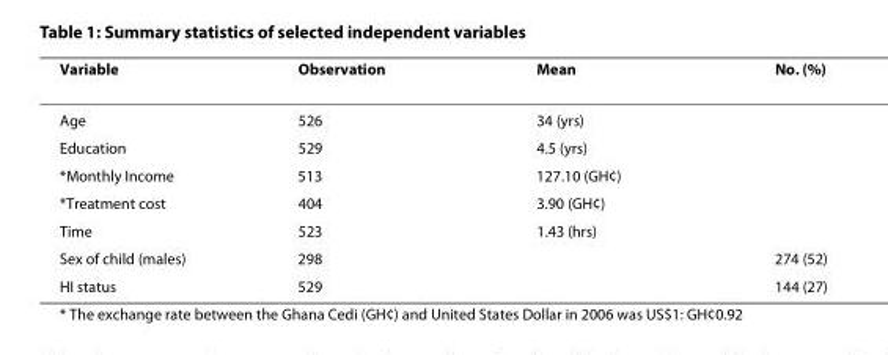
<table><thead><tr><td>Variable</td><td>Observation</td><td>Mean</td><td>No. (%)</td></tr></thead><tbody><tr><td>Age</td><td>526</td><td>34 (yrs)</td><td></td></tr><tr><td>Education</td><td>529</td><td>4.5 (yrs)</td><td></td></tr><tr><td>*Monthly Income</td><td>513</td><td>127.10 (GH¢)</td><td></td></tr><tr><td>*Treatment cost</td><td>404</td><td>3.90 (GH¢)</td><td></td></tr><tr><td>Time</td><td>523</td><td>1.43 (hrs)</td><td></td></tr><tr><td>Sex of child (males)</td><td>298</td><td></td><td>274 (52)</td></tr><tr><td>HI status</td><td>529</td><td></td><td>144 (27)</td></tr></tbody></table>